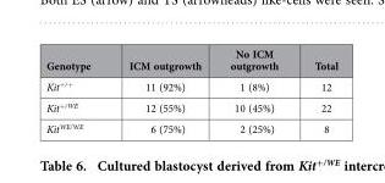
<table><thead><tr><td>Genotype</td><td>ICM outgrowth</td><td>No ICM outgrowth</td><td>Total</td></tr></thead><tbody><tr><td>Kit<sup>+/+</sup></td><td>11 (92%)</td><td>1 (8%)</td><td>12</td></tr><tr><td>Kit<sup>+/WE</sup></td><td>12 (55%)</td><td>10 (45%)</td><td>22</td></tr><tr><td>Kit<sup>WE/WE</sup></td><td>6 (75%)</td><td>2 (25%)</td><td>8</td></tr></tbody></table>